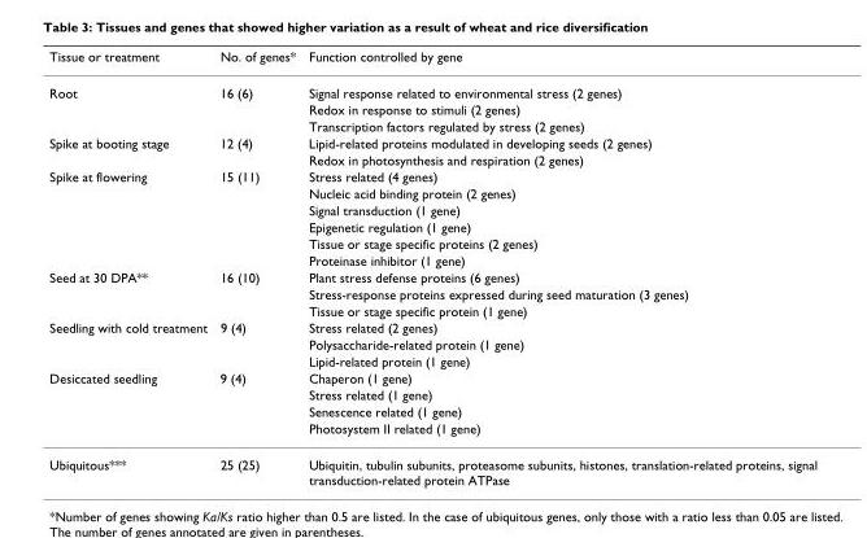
<table><thead><tr><td>Tissue or treatment</td><td>No. of genes*</td><td>Function controlled by gene</td></tr></thead><tbody><tr><td rowspan="3">Root</td><td>16 (6)</td><td>Signal response related to environmental stress (2 genes)</td></tr><tr><td></td><td>Redox in response to stimuli (2 genes)</td></tr><tr><td></td><td>Transcription factors regulated by stress (2 genes)</td></tr><tr><td rowspan="2">Spike at booting stage</td><td>12 (4)</td><td>Lipid-related proteins modulated in developing seeds (2 genes)</td></tr><tr><td></td><td>Redox in photosynthesis and respiration (2 genes)</td></tr><tr><td rowspan="6">Spike at flowering</td><td>15 (11)</td><td>Stress related (4 genes)</td></tr><tr><td></td><td>Nucleic acid binding protein (2 genes)</td></tr><tr><td></td><td>Signal transduction (1 gene)</td></tr><tr><td></td><td>Epigenetic regulation (1 gene)</td></tr><tr><td></td><td>Tissue or stage specific proteins (2 genes)</td></tr><tr><td></td><td>Proteinase inhibitor (1 gene)</td></tr><tr><td rowspan="3">Seed at 30 DPA**</td><td>16 (10)</td><td>Plant stress defense proteins (6 genes)</td></tr><tr><td></td><td>Stress-response proteins expressed during seed maturation (3 genes)</td></tr><tr><td></td><td>Tissue or stage specific protein (1 gene)</td></tr><tr><td rowspan="3">Seedling with cold treatment</td><td>9 (4)</td><td>Stress related (2 genes)</td></tr><tr><td></td><td>Polysaccharide-related protein (1 gene)</td></tr><tr><td></td><td>Lipid-related protein (1 gene)</td></tr><tr><td rowspan="4">Desiccated seedling</td><td>9 (4)</td><td>Chaperon (1 gene)</td></tr><tr><td></td><td>Stress related (1 gene)</td></tr><tr><td></td><td>Senescence related (1 gene)</td></tr><tr><td></td><td>Photosystem II related (1 gene)</td></tr><tr><td>Ubiquitous***</td><td>25 (25)</td><td>Ubiquitin, tubulin subunits, proteasome subunits, histones, translation-related proteins, signal transduction-related protein ATPase</td></tr></tbody></table>